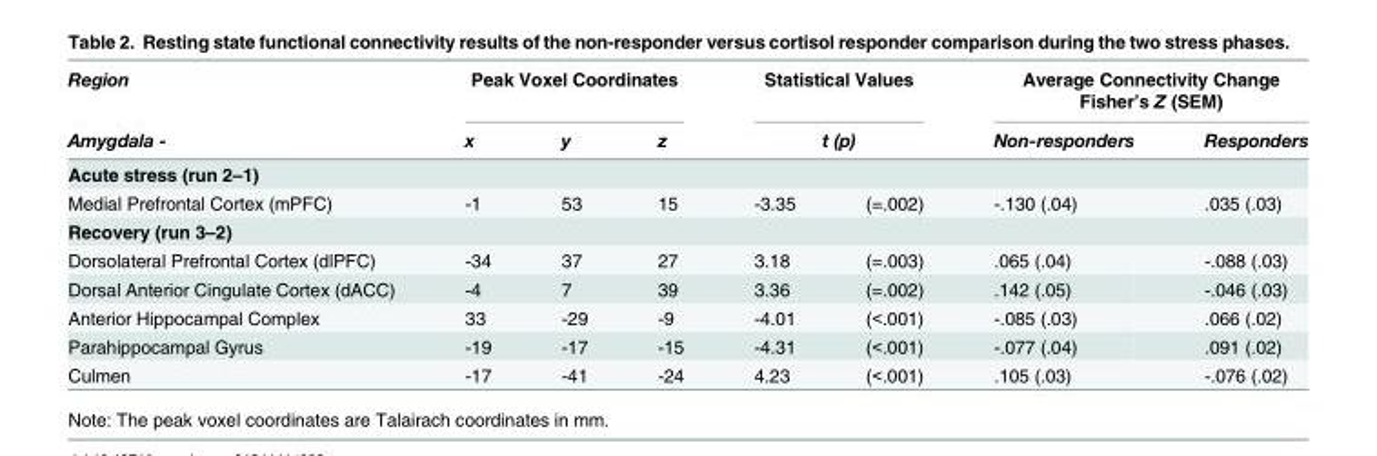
<table><thead><tr><td rowspan="2">Region Amygdala -</td><td colspan="3">Peak Voxel Coordinates</td><td rowspan="2" colspan="2">Statistical Values t (p)</td><td colspan="2">Average Connectivity Change Fisher’s Z (SEM)</td></tr><tr><td>x</td><td>y</td><td>z</td><td>Non-responders</td><td>Responders</td></tr><tr><td colspan="8">Acute stress (run 2–1)</td></tr><tr><td>Medial Prefrontal Cortex (mPFC)</td><td>-1</td><td>53</td><td>15</td><td>-3.35</td><td>(=.002)</td><td>-.130 (.04)</td><td>.035 (.03)</td></tr></thead><tbody><tr><td colspan="8">Recovery (run 3–2)</td></tr><tr><td>Dorsolateral Prefrontal Cortex (dlPFC)</td><td>-34</td><td>37</td><td>27</td><td>3.18</td><td>(=.003)</td><td>.065 (.04)</td><td>-.088 (.03)</td></tr><tr><td>Dorsal Anterior Cingulate Cortex (dACC)</td><td>-4</td><td>7</td><td>39</td><td>3.36</td><td>(=.002)</td><td>.142 (.05)</td><td>-.046 (.03)</td></tr><tr><td>Anterior Hippocampal Complex</td><td>33</td><td>-29</td><td>-9</td><td>-4.01</td><td>(&lt;.001)</td><td>-.085 (.03)</td><td>.066 (.02)</td></tr><tr><td>Parahippocampal Gyrus</td><td>-19</td><td>-17</td><td>-15</td><td>-4.31</td><td>(&lt;.001)</td><td>-.077 (.04)</td><td>.091 (.02)</td></tr><tr><td>Culmen</td><td>-17</td><td>-41</td><td>-24</td><td>4.23</td><td>(&lt;.001)</td><td>.105 (.03)</td><td>-.076 (.02)</td></tr></tbody></table>